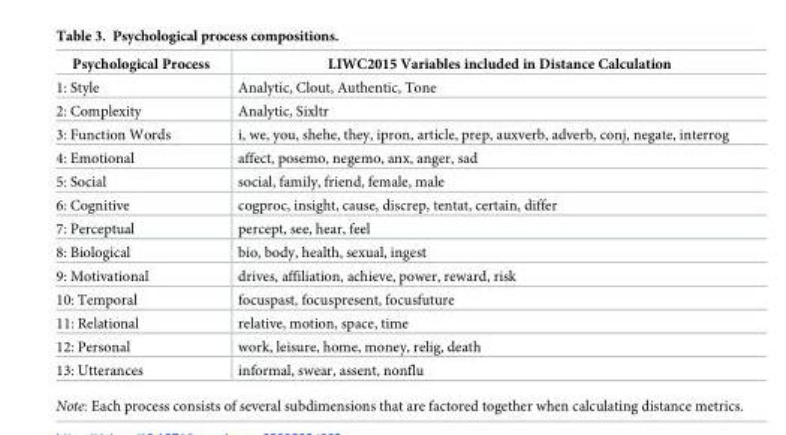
<table><thead><tr><td>Psychological Process</td><td>LIWC2015 Variables included in Distance Calculation</td></tr></thead><tbody><tr><td>1: Style</td><td>Analytic, Clout, Authentic, Tone</td></tr><tr><td>2: Complexity</td><td>Analytic, Sixltr</td></tr><tr><td>3: Function Words</td><td>i, we, you, shehe, they, ipron, article, prep, auxverb, adverb, conj, negate, interrog</td></tr><tr><td>4: Emotional</td><td>affect, posemo, negemo, anx, anger, sad</td></tr><tr><td>5: Social</td><td>social, family, friend, female, male</td></tr><tr><td>6: Cognitive</td><td>cogproc, insight, cause, discrep, tentat, certain, differ</td></tr><tr><td>7: Perceptual</td><td>percept, see, hear, feel</td></tr><tr><td>8: Biological</td><td>bio, body, health, sexual, ingest</td></tr><tr><td>9: Motivational</td><td>drives, affiliation, achieve, power, reward, risk</td></tr><tr><td>10: Temporal</td><td>focuspast, focuspresent, focusfuture</td></tr><tr><td>11: Relational</td><td>relative, motion, space, time</td></tr><tr><td>12: Personal</td><td>work, leisure, home, money, relig, death</td></tr><tr><td>13: Utterances</td><td>informal, swear, assent, nonflu</td></tr></tbody></table>